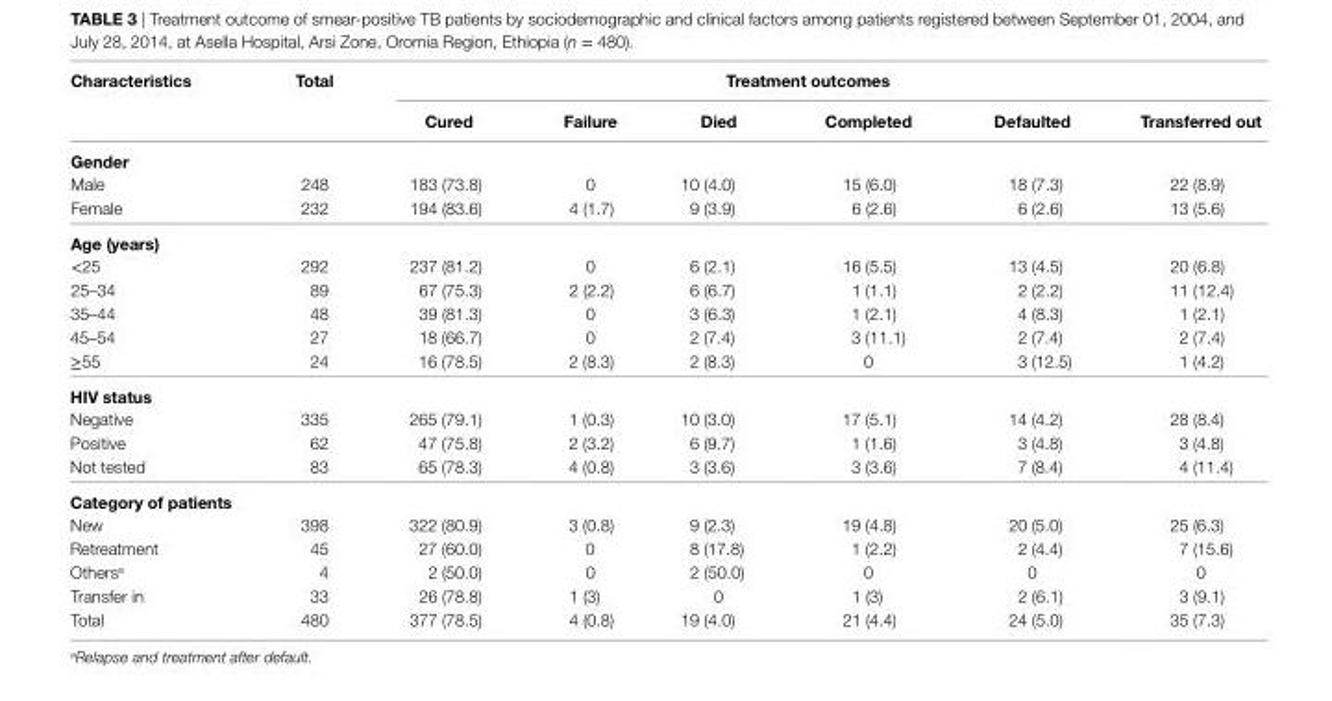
<table><thead><tr><td rowspan="2">characteristics</td><td rowspan="2">Total</td><td colspan="6">Treatment outcomes</td></tr><tr><td>cured</td><td>Failure</td><td>Died</td><td>completed</td><td>Defaulted</td><td>Transferred out</td></tr></thead><tbody><tr><td colspan="8">gender</td></tr><tr><td>Male</td><td>248</td><td>183 (73.8)</td><td>0</td><td>10 (4.0)</td><td>15 (6.0)</td><td>18 (7.3)</td><td>22 (8.9)</td></tr><tr><td>Female</td><td>232</td><td>194 (83.6)</td><td>4 (1.7)</td><td>9 (3.9)</td><td>6 (2.6)</td><td>6 (2.6)</td><td>13 (5.6)</td></tr><tr><td colspan="8">age (years)</td></tr><tr><td>&lt;25</td><td>292</td><td>237 (81.2)</td><td>0</td><td>6 (2.1)</td><td>16 (5.5)</td><td>13 (4.5)</td><td>20 (6.8)</td></tr><tr><td>25–34</td><td>89</td><td>67 (75.3)</td><td>2 (2.2)</td><td>6 (6.7)</td><td>1 (1.1)</td><td>2 (2.2)</td><td>11 (12.4)</td></tr><tr><td>35–44</td><td>48</td><td>39 (81.3)</td><td>0</td><td>3 (6.3)</td><td>1 (2.1)</td><td>4 (8.3)</td><td>1 (2.1)</td></tr><tr><td>45–54</td><td>27</td><td>18 (66.7)</td><td>0</td><td>2 (7.4)</td><td>3 (11.1)</td><td>2 (7.4)</td><td>2 (7.4)</td></tr><tr><td>≥55</td><td>24</td><td>16 (78.5)</td><td>2 (8.3)</td><td>2 (8.3)</td><td>0</td><td>3 (12.5)</td><td>1 (4.2)</td></tr><tr><td colspan="8">hiV status</td></tr><tr><td>Negative</td><td>335</td><td>265 (79.1)</td><td>1 (0.3)</td><td>10 (3.0)</td><td>17 (5.1)</td><td>14 (4.2)</td><td>28 (8.4)</td></tr><tr><td>Positive</td><td>62</td><td>47 (75.8)</td><td>2 (3.2)</td><td>6 (9.7)</td><td>1 (1.6)</td><td>3 (4.8)</td><td>3 (4.8)</td></tr><tr><td>Not tested</td><td>83</td><td>65 (78.3)</td><td>4 (0.8)</td><td>3 (3.6)</td><td>3 (3.6)</td><td>7 (8.4)</td><td>4 (11.4)</td></tr><tr><td colspan="8">category of patients</td></tr><tr><td>New</td><td>398</td><td>322 (80.9)</td><td>3 (0.8)</td><td>9 (2.3)</td><td>19 (4.8)</td><td>20 (5.0)</td><td>25 (6.3)</td></tr><tr><td>Retreatment</td><td>45</td><td>27 (60.0)</td><td>0</td><td>8 (17.8)</td><td>1 (2.2)</td><td>2 (4.4)</td><td>7 (15.6)</td></tr><tr><td>Others<sup>a</sup></td><td>4</td><td>2 (50.0)</td><td>0</td><td>2 (50.0)</td><td>0</td><td>0</td><td>0</td></tr><tr><td>Transfer in</td><td>33</td><td>26 (78.8)</td><td>1 (3)</td><td>0</td><td>1 (3)</td><td>2 (6.1)</td><td>3 (9.1)</td></tr><tr><td>Total</td><td>480</td><td>377 (78.5)</td><td>4 (0.8)</td><td>19 (4.0)</td><td>21 (4.4)</td><td>24 (5.0)</td><td>35 (7.3)</td></tr></tbody></table>